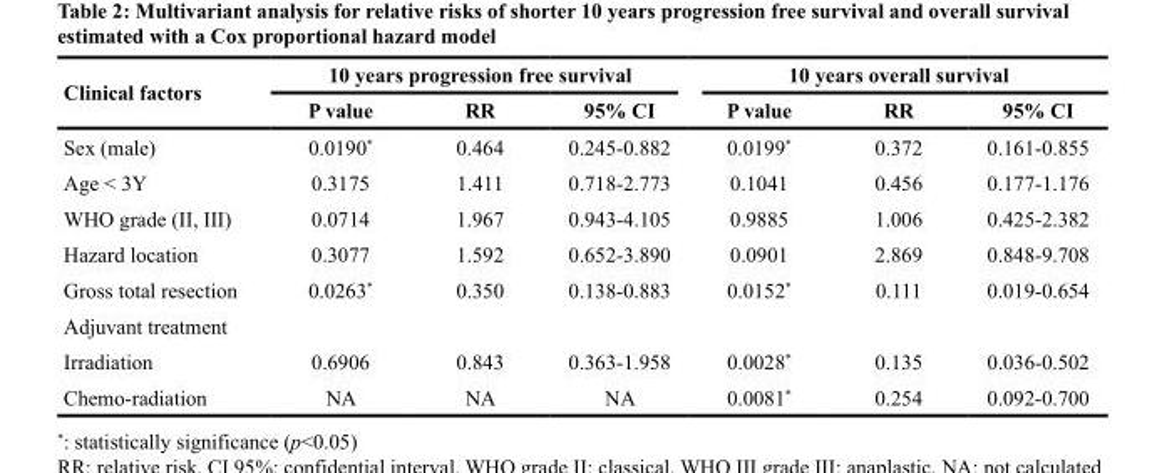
<table><thead><tr><td rowspan="2">Clinical factors</td><td colspan="3">10 years progression free survival</td><td colspan="3">10 years overall survival</td></tr><tr><td>P value</td><td>RR</td><td>95% CI</td><td>P value</td><td>RR</td><td>95% CI</td></tr></thead><tbody><tr><td>Sex (male)</td><td>0.0190*</td><td>0.464</td><td>0.245-0.882</td><td>0.0199*</td><td>0.372</td><td>0.161-0.855</td></tr><tr><td>Age &lt; 3Y</td><td>0.3175</td><td>1.411</td><td>0.718-2.773</td><td>0.1041</td><td>0.456</td><td>0.177-1.176</td></tr><tr><td>WHO grade (II, III)</td><td>0.0714</td><td>1.967</td><td>0.943-4.105</td><td>0.9885</td><td>1.006</td><td>0.425-2.382</td></tr><tr><td>Hazard location</td><td>0.3077</td><td>1.592</td><td>0.652-3.890</td><td>0.0901</td><td>2.869</td><td>0.848-9.708</td></tr><tr><td>Gross total resection</td><td>0.0263*</td><td>0.350</td><td>0.138-0.883</td><td>0.0152*</td><td>0.111</td><td>0.019-0.654</td></tr><tr><td colspan="7">Adjuvant treatment</td></tr><tr><td>Irradiation</td><td>0.6906</td><td>0.843</td><td>0.363-1.958</td><td>0.0028*</td><td>0.135</td><td>0.036-0.502</td></tr><tr><td>Chemo-radiation</td><td>NA</td><td>NA</td><td>NA</td><td>0.0081*</td><td>0.254</td><td>0.092-0.700</td></tr></tbody></table>